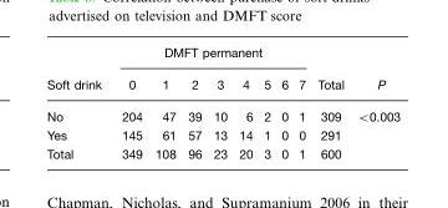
<table><thead><tr><td rowspan="2">Soft drink</td><td colspan="8">DMFT permanent</td><td rowspan="2">Total</td><td rowspan="2">P</td></tr><tr><td>0</td><td>1</td><td>2</td><td>3</td><td>4</td><td>5</td><td>6</td><td>7</td></tr></thead><tbody><tr><td>No</td><td>204</td><td>47</td><td>39</td><td>10</td><td>6</td><td>2</td><td>0</td><td>1</td><td>309</td><td>&lt;0.003</td></tr><tr><td>Yes</td><td>145</td><td>61</td><td>57</td><td>13</td><td>14</td><td>1</td><td>0</td><td>0</td><td>291</td><td></td></tr><tr><td>Total</td><td>349</td><td>108</td><td>96</td><td>23</td><td>20</td><td>3</td><td>0</td><td>1</td><td>600</td><td></td></tr></tbody></table>